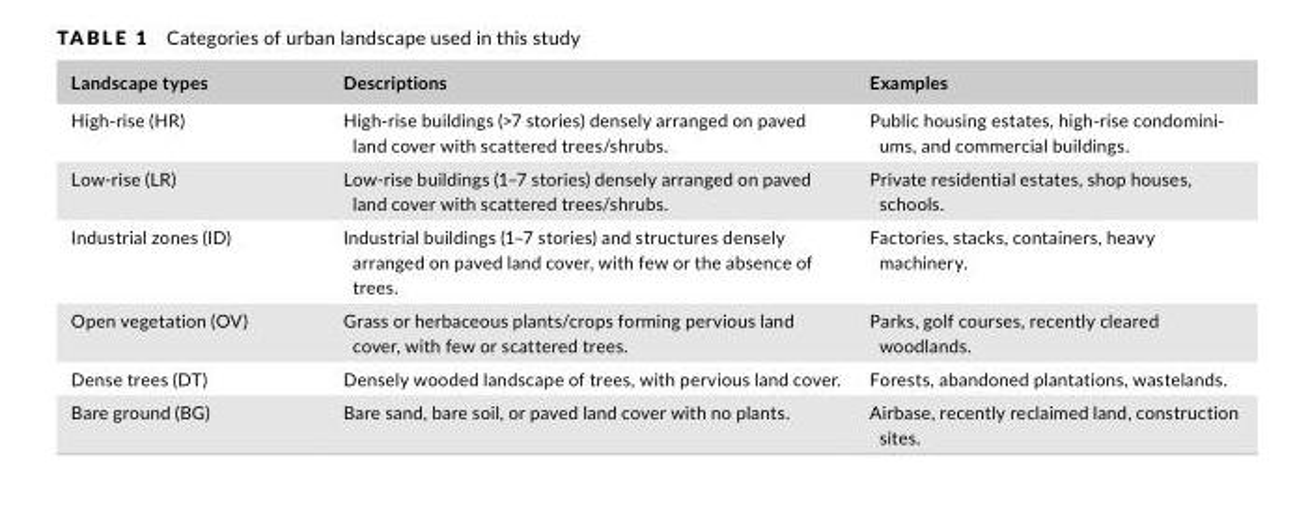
<table><thead><tr><td>Landscape types</td><td>Descriptions</td><td>Examples</td></tr></thead><tbody><tr><td>High- rise (HR)</td><td>High- rise buildings (&gt;7 stories) densely arranged on paved land cover with scattered trees/shrubs.</td><td>Public housing estates, high- rise condomini- ums, and commercial buildings.</td></tr><tr><td>Low- rise (LR)</td><td>Low- rise buildings (1–7 stories) densely arranged on paved land cover with scattered trees/shrubs.</td><td>Private residential estates, shop houses, schools.</td></tr><tr><td>Industrial zones (ID)</td><td>Industrial buildings (1–7 stories) and structures densely arranged on paved land cover, with few or the absence of trees.</td><td>Factories, stacks, containers, heavy machinery.</td></tr><tr><td>Open vegetation (OV)</td><td>Grass or herbaceous plants/crops forming pervious land cover, with few or scattered trees.</td><td>Parks, golf courses, recently cleared woodlands.</td></tr><tr><td>Dense trees (DT)</td><td>Densely wooded landscape of trees, with pervious land cover.</td><td>Forests, abandoned plantations, wastelands.</td></tr><tr><td>Bare ground (BG)</td><td>Bare sand, bare soil, or paved land cover with no plants.</td><td>Airbase, recently reclaimed land, construction sites.</td></tr></tbody></table>